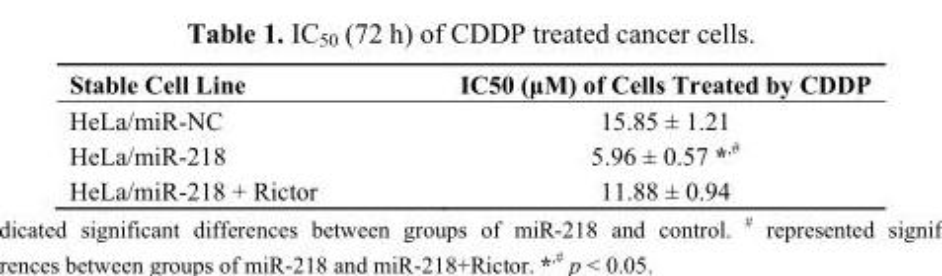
<table><thead><tr><td>Stable Cell Line</td><td>IC50 (μM) of Cells Treated by CDDP</td></tr></thead><tbody><tr><td>HeLa/miR-NC</td><td>15.85 ± 1.21</td></tr><tr><td>HeLa/miR-218</td><td>5.96 ± 0.57 *,#</td></tr><tr><td>HeLa/miR-218 + Rictor</td><td>11.88 ± 0.94</td></tr></tbody></table>